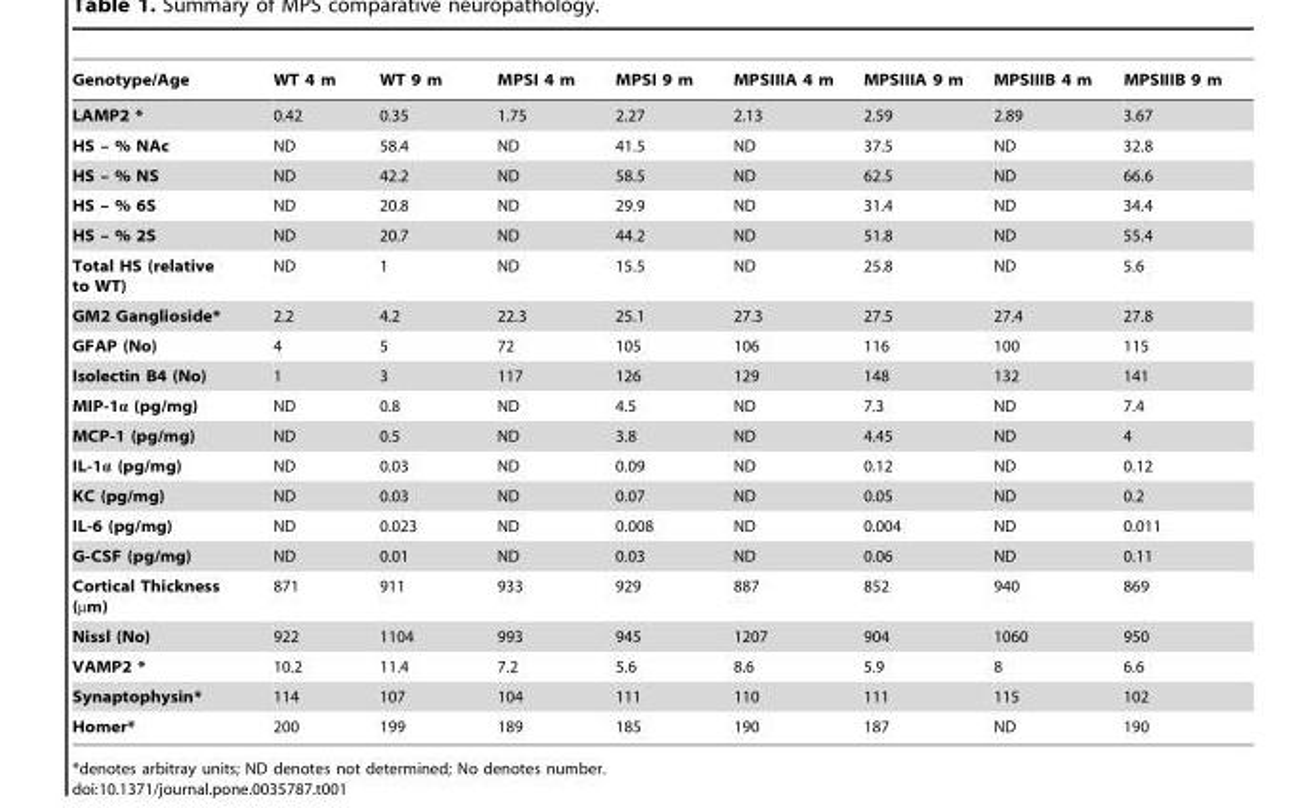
<table><thead><tr><td>Genotype/Age</td><td>WT 4 m</td><td>WT 9 m</td><td>MPSI 4 m</td><td>MPSI 9 m</td><td>MPSIIIA 4 m</td><td>MPSIIIA 9 m</td><td>MPSIIIB 4 m</td><td>MPSIIIB 9 m</td></tr></thead><tbody><tr><td>LAMP2 *</td><td>0.42</td><td>0.35</td><td>1.75</td><td>2.27</td><td>2.13</td><td>2.59</td><td>2.89</td><td>3.67</td></tr><tr><td>HS – % NAc</td><td>ND</td><td>58.4</td><td>ND</td><td>41.5</td><td>ND</td><td>37.5</td><td>ND</td><td>32.8</td></tr><tr><td>HS – % NS</td><td>ND</td><td>42.2</td><td>ND</td><td>58.5</td><td>ND</td><td>62.5</td><td>ND</td><td>66.6</td></tr><tr><td>HS – % 6S</td><td>ND</td><td>20.8</td><td>ND</td><td>29.9</td><td>ND</td><td>31.4</td><td>ND</td><td>34.4</td></tr><tr><td>HS – % 2S</td><td>ND</td><td>20.7</td><td>ND</td><td>44.2</td><td>ND</td><td>51.8</td><td>ND</td><td>55.4</td></tr><tr><td>Total HS (relative to WT)</td><td>ND</td><td>1</td><td>ND</td><td>15.5</td><td>ND</td><td>25.8</td><td>ND</td><td>5.6</td></tr><tr><td>GM2 Ganglioside*</td><td>2.2</td><td>4.2</td><td>22.3</td><td>25.1</td><td>27.3</td><td>27.5</td><td>27.4</td><td>27.8</td></tr><tr><td>GFAP (No)</td><td>4</td><td>5</td><td>72</td><td>105</td><td>106</td><td>116</td><td>100</td><td>115</td></tr><tr><td>Isolectin B4 (No)</td><td>1</td><td>3</td><td>117</td><td>126</td><td>129</td><td>148</td><td>132</td><td>141</td></tr><tr><td>MIP-1α (pg/mg)</td><td>ND</td><td>0.8</td><td>ND</td><td>4.5</td><td>ND</td><td>7.3</td><td>ND</td><td>7.4</td></tr><tr><td>MCP-1 (pg/mg)</td><td>ND</td><td>0.5</td><td>ND</td><td>3.8</td><td>ND</td><td>4.45</td><td>ND</td><td>4</td></tr><tr><td>IL-1α (pg/mg)</td><td>ND</td><td>0.03</td><td>ND</td><td>0.09</td><td>ND</td><td>0.12</td><td>ND</td><td>0.12</td></tr><tr><td>KC (pg/mg)</td><td>ND</td><td>0.03</td><td>ND</td><td>0.07</td><td>ND</td><td>0.05</td><td>ND</td><td>0.2</td></tr><tr><td>IL-6 (pg/mg)</td><td>ND</td><td>0.023</td><td>ND</td><td>0.008</td><td>ND</td><td>0.004</td><td>ND</td><td>0.011</td></tr><tr><td>G-CSF (pg/mg)</td><td>ND</td><td>0.01</td><td>ND</td><td>0.03</td><td>ND</td><td>0.06</td><td>ND</td><td>0.11</td></tr><tr><td>Cortical Thickness (µm)</td><td>871</td><td>911</td><td>933</td><td>929</td><td>887</td><td>852</td><td>940</td><td>869</td></tr><tr><td>Nissl (No)</td><td>922</td><td>1104</td><td>993</td><td>945</td><td>1207</td><td>904</td><td>1060</td><td>950</td></tr><tr><td>VAMP2 *</td><td>10.2</td><td>11.4</td><td>7.2</td><td>5.6</td><td>8.6</td><td>5.9</td><td>8</td><td>6.6</td></tr><tr><td>Synaptophysin*</td><td>114</td><td>107</td><td>104</td><td>111</td><td>110</td><td>111</td><td>115</td><td>102</td></tr><tr><td>Homer*</td><td>200</td><td>199</td><td>189</td><td>185</td><td>190</td><td>187</td><td>ND</td><td>190</td></tr></tbody></table>